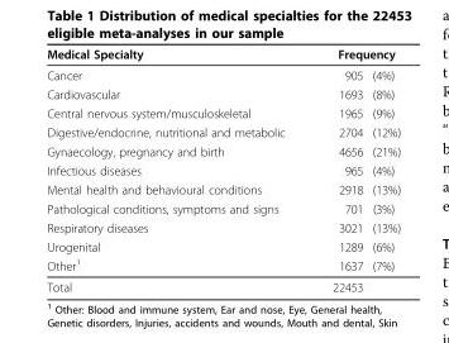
<table><thead><tr><td rowspan="2">Medical Specialty Cancer</td><td colspan="2">Frequency</td></tr><tr><td>905</td><td>(4%)</td></tr></thead><tbody><tr><td>Cardiovascular</td><td>1693</td><td>(8%)</td></tr><tr><td>Central nervous system/musculoskeletal</td><td>1965</td><td>(9%)</td></tr><tr><td>Digestive/endocrine, nutritional and metabolic</td><td>2704</td><td>(12%)</td></tr><tr><td>Gynaecology, pregnancy and birth</td><td>4656</td><td>(21%)</td></tr><tr><td>Infectious diseases</td><td>965</td><td>(4%)</td></tr><tr><td>Mental health and behavioural conditions</td><td>2918</td><td>(13%)</td></tr><tr><td>Pathological conditions, symptoms and signs</td><td>701</td><td>(3%)</td></tr><tr><td>Respiratory diseases</td><td>3021</td><td>(13%)</td></tr><tr><td>Urogenital</td><td>1289</td><td>(6%)</td></tr><tr><td>Other<sup>1</sup></td><td>1637</td><td>(7%)</td></tr><tr><td>Total</td><td>22453</td><td></td></tr></tbody></table>